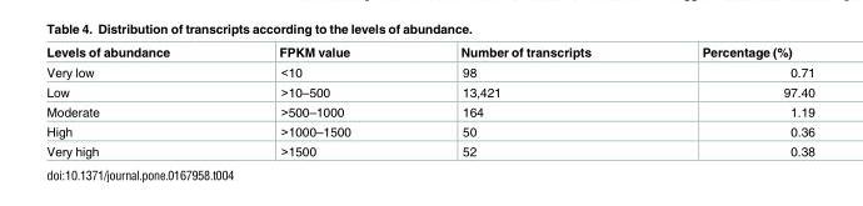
<table><thead><tr><td>Levels of abundance</td><td>FPKM value</td><td>Number of transcripts</td><td>Percentage (%)</td></tr></thead><tbody><tr><td>Very low</td><td>&lt;10</td><td>98</td><td>0.71</td></tr><tr><td>Low</td><td>&gt;10–500</td><td>13,421</td><td>97.40</td></tr><tr><td>Moderate</td><td>&gt;500–1000</td><td>164</td><td>1.19</td></tr><tr><td>High</td><td>&gt;1000–1500</td><td>50</td><td>0.36</td></tr><tr><td>Very high</td><td>&gt;1500</td><td>52</td><td>0.38</td></tr></tbody></table>